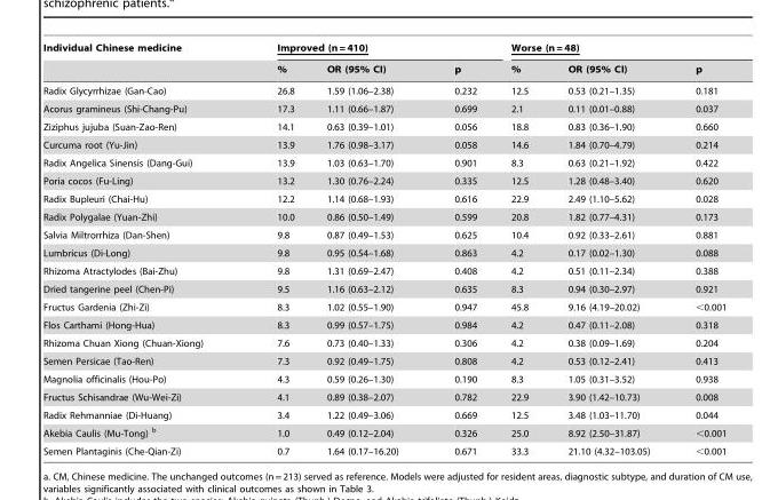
<table><thead><tr><td rowspan="2">Individual Chinese medicine</td><td colspan="3">Improved (n = 410)</td><td colspan="3">Worse (n = 48)</td></tr><tr><td>%</td><td>OR (95% CI)</td><td>p</td><td>%</td><td>OR (95% CI)</td><td>p</td></tr></thead><tbody><tr><td>Radix Glycyrrhizae (Gan-Cao)</td><td>26.8</td><td>1.59 (1.06–2.38)</td><td>0.232</td><td>12.5</td><td>0.53 (0.21–1.35)</td><td>0.181</td></tr><tr><td>Acorus gramineus (Shi-Chang-Pu)</td><td>17.3</td><td>1.11 (0.66–1.87)</td><td>0.699</td><td>2.1</td><td>0.11 (0.01–0.88)</td><td>0.037</td></tr><tr><td>Ziziphus jujuba (Suan-Zao-Ren)</td><td>14.1</td><td>0.63 (0.39–1.01)</td><td>0.056</td><td>18.8</td><td>0.83 (0.36–1.90)</td><td>0.660</td></tr><tr><td>Curcuma root (Yu-Jin)</td><td>13.9</td><td>1.76 (0.98–3.17)</td><td>0.058</td><td>14.6</td><td>1.84 (0.70–4.79)</td><td>0.214</td></tr><tr><td>Radix Angelica Sinensis (Dang-Gui)</td><td>13.9</td><td>1.03 (0.63–1.70)</td><td>0.901</td><td>8.3</td><td>0.63 (0.21–1.92)</td><td>0.422</td></tr><tr><td>Poria cocos (Fu-Ling)</td><td>13.2</td><td>1.30 (0.76–2.24)</td><td>0.335</td><td>12.5</td><td>1.28 (0.48–3.40)</td><td>0.620</td></tr><tr><td>Radix Bupleuri (Chai-Hu)</td><td>12.2</td><td>1.14 (0.68–1.93)</td><td>0.616</td><td>22.9</td><td>2.49 (1.10–5.62)</td><td>0.028</td></tr><tr><td>Radix Polygalae (Yuan-Zhi)</td><td>10.0</td><td>0.86 (0.50–1.49)</td><td>0.599</td><td>20.8</td><td>1.82 (0.77–4.31)</td><td>0.173</td></tr><tr><td>Salvia Miltrorrhiza (Dan-Shen)</td><td>9.8</td><td>0.87 (0.49–1.53)</td><td>0.625</td><td>10.4</td><td>0.92 (0.33–2.61)</td><td>0.881</td></tr><tr><td>Lumbricus (Di-Long)</td><td>9.8</td><td>0.95 (0.54–1.68)</td><td>0.863</td><td>4.2</td><td>0.17 (0.02–1.30)</td><td>0.088</td></tr><tr><td>Rhizoma Atractylodes (Bai-Zhu)</td><td>9.8</td><td>1.31 (0.69–2.47)</td><td>0.408</td><td>4.2</td><td>0.51 (0.11–2.34)</td><td>0.388</td></tr><tr><td>Dried tangerine peel (Chen-Pi)</td><td>9.5</td><td>1.16 (0.63–2.12)</td><td>0.635</td><td>8.3</td><td>0.94 (0.30–2.97)</td><td>0.921</td></tr><tr><td>Fructus Gardenia (Zhi-Zi)</td><td>8.3</td><td>1.02 (0.55–1.90)</td><td>0.947</td><td>45.8</td><td>9.16 (4.19–20.02)</td><td>&lt;0.001</td></tr><tr><td>Flos Carthami (Hong-Hua)</td><td>8.3</td><td>0.99 (0.57–1.75)</td><td>0.984</td><td>4.2</td><td>0.47 (0.11–2.08)</td><td>0.318</td></tr><tr><td>Rhizoma Chuan Xiong (Chuan-Xiong)</td><td>7.6</td><td>0.73 (0.40–1.33)</td><td>0.306</td><td>4.2</td><td>0.38 (0.09–1.69)</td><td>0.204</td></tr><tr><td>Semen Persicae (Tao-Ren)</td><td>7.3</td><td>0.92 (0.49–1.75)</td><td>0.808</td><td>4.2</td><td>0.53 (0.12–2.41)</td><td>0.413</td></tr><tr><td>Magnolia officinalis (Hou-Po)</td><td>4.3</td><td>0.59 (0.26–1.30)</td><td>0.190</td><td>8.3</td><td>1.05 (0.31–3.52)</td><td>0.938</td></tr><tr><td>Fructus Schisandrae (Wu-Wei-Zi)</td><td>4.1</td><td>0.89 (0.38–2.07)</td><td>0.782</td><td>22.9</td><td>3.90 (1.42–10.73)</td><td>0.008</td></tr><tr><td>Radix Rehmanniae (Di-Huang)</td><td>3.4</td><td>1.22 (0.49–3.06)</td><td>0.669</td><td>12.5</td><td>3.48 (1.03–11.70)</td><td>0.044</td></tr><tr><td>Akebia Caulis (Mu-Tong) b</td><td>1.0</td><td>0.49 (0.12–2.04)</td><td>0.326</td><td>25.0</td><td>8.92 (2.50–31.87)</td><td>&lt;0.001</td></tr><tr><td>Semen Plantaginis (Che-Qian-Zi)</td><td>0.7</td><td>1.64 (0.17–16.20)</td><td>0.671</td><td>33.3</td><td>21.10 (4.32–103.05)</td><td>&lt;0.001</td></tr></tbody></table>